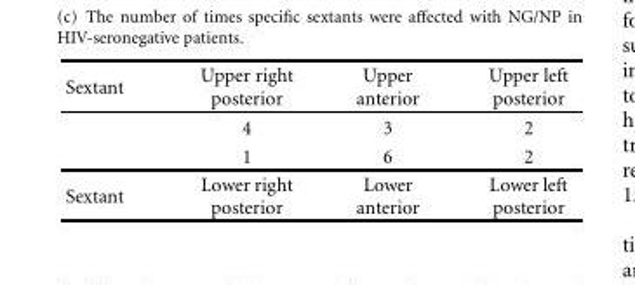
<table><thead><tr><td>Sextant</td><td>Upper right posterior</td><td>Upper anterior</td><td>Upper left posterior</td></tr></thead><tbody><tr><td></td><td>4</td><td>3</td><td>2</td></tr><tr><td></td><td>1</td><td>6</td><td>2</td></tr><tr><td>Sextant</td><td>Lower right posterior</td><td>Lower anterior</td><td>Lower left posterior</td></tr></tbody></table>